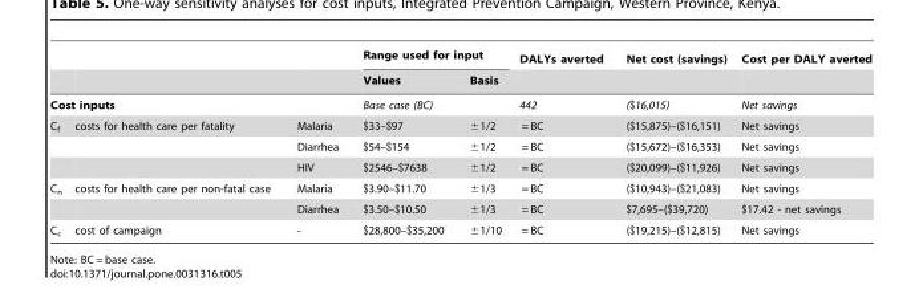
<table><thead><tr><td rowspan="2"></td><td rowspan="2"></td><td rowspan="2"></td><td colspan="2">Range used for input</td><td rowspan="2">DALYs averted</td><td rowspan="2">Net cost (savings)</td><td rowspan="2">Cost per DALY averted</td></tr><tr><td>Values</td><td>Basis</td></tr></thead><tbody><tr><td colspan="2">Cost inputs</td><td></td><td>Base case (BC)</td><td></td><td>442</td><td>($16,015)</td><td>Net savings</td></tr><tr><td rowspan="3">C<sub>f</sub></td><td>costs for health care per fatality</td><td>Malaria</td><td>$33–$97</td><td>±1/2</td><td>= BC</td><td>($15,875)–($16,151)</td><td>Net savings</td></tr><tr><td></td><td>Diarrhea</td><td>$54–$154</td><td>±1/2</td><td>= BC</td><td>($15,672)–($16,353)</td><td>Net savings</td></tr><tr><td></td><td>HIV</td><td>$2546–$7638</td><td>±1/2</td><td>= BC</td><td>($20,099)–($11,926)</td><td>Net savings</td></tr><tr><td rowspan="2">C<sub>n</sub></td><td>costs for health care per non-fatal case</td><td>Malaria</td><td>$3.90–$11.70</td><td>±1/3</td><td>= BC</td><td>($10,943)–($21,083)</td><td>Net savings</td></tr><tr><td></td><td>Diarrhea</td><td>$3.50–$10.50</td><td>±1/3</td><td>= BC</td><td>$7,695–($39,720)</td><td>$17.42 - net savings</td></tr><tr><td>C<sub>c</sub></td><td>cost of campaign</td><td>-</td><td>$28,800–$35,200</td><td>±1/10</td><td>= BC</td><td>($19,215)–($12,815)</td><td>Net savings</td></tr></tbody></table>